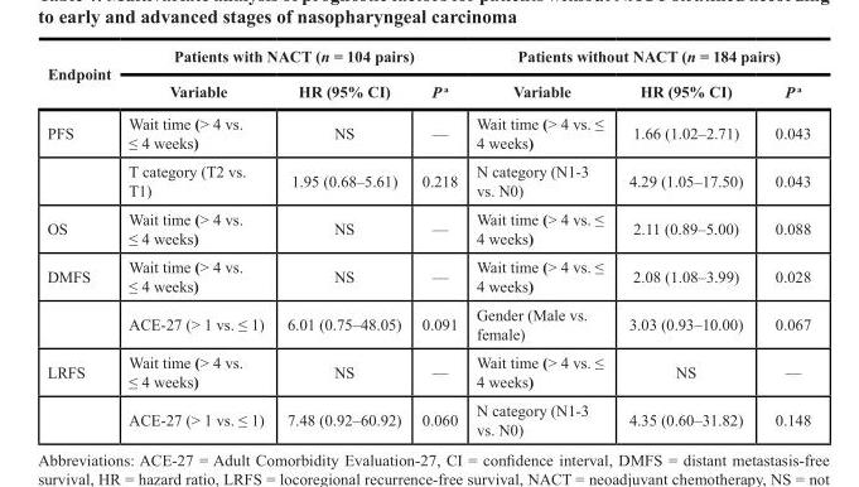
<table><thead><tr><td rowspan="2">Endpoint</td><td colspan="3">Patients with NACT (n = 104 pairs)</td><td colspan="3">Patients without NACT (n = 184 pairs)</td></tr><tr><td>Variable</td><td>HR (95% CI)</td><td>P <sup>a</sup></td><td>Variable</td><td>HR (95% CI)</td><td>P <sup>a</sup></td></tr></thead><tbody><tr><td rowspan="2">PFS</td><td>Wait time (&gt; 4 vs. ≤ 4 weeks)</td><td>NS</td><td>—</td><td>Wait time (&gt; 4 vs. ≤ 4 weeks)</td><td>1.66 (1.02–2.71)</td><td>0.043</td></tr><tr><td>T category (T2 vs. T1)</td><td>1.95 (0.68–5.61)</td><td>0.218</td><td>N category (N1-3 vs. N0)</td><td>4.29 (1.05–17.50)</td><td>0.043</td></tr><tr><td>OS</td><td>Wait time (&gt; 4 vs. ≤ 4 weeks)</td><td>NS</td><td>—</td><td>Wait time (&gt; 4 vs. ≤ 4 weeks)</td><td>2.11 (0.89–5.00)</td><td>0.088</td></tr><tr><td rowspan="2">DMFS</td><td>Wait time (&gt; 4 vs. ≤ 4 weeks)</td><td>NS</td><td>—</td><td>Wait time (&gt; 4 vs. ≤ 4 weeks)</td><td>2.08 (1.08–3.99)</td><td>0.028</td></tr><tr><td>ACE-27 (&gt; 1 vs. ≤ 1)</td><td>6.01 (0.75–48.05)</td><td>0.091</td><td>Gender (Male vs. female)</td><td>3.03 (0.93–10.00)</td><td>0.067</td></tr><tr><td rowspan="2">LRFS</td><td>Wait time (&gt; 4 vs. ≤ 4 weeks)</td><td>NS</td><td>—</td><td>Wait time (&gt; 4 vs. ≤ 4 weeks)</td><td>NS</td><td>—</td></tr><tr><td>ACE-27 (&gt; 1 vs. ≤ 1)</td><td>7.48 (0.92–60.92)</td><td>0.060</td><td>N category (N1-3 vs. N0)</td><td>4.35 (0.60–31.82)</td><td>0.148</td></tr></tbody></table>